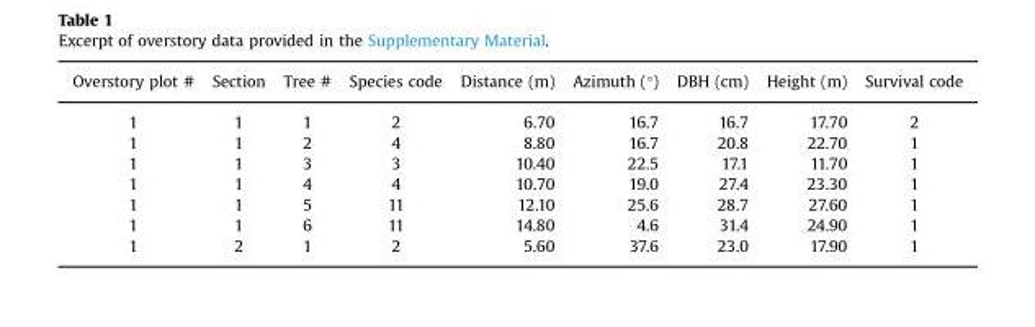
<table><thead><tr><td>Overstory plot #</td><td>Section</td><td>Tree #</td><td>Species code</td><td>Distance (m)</td><td>Azimuth (°)</td><td>DBH (cm)</td><td>Height (m)</td><td>Survival code</td></tr></thead><tbody><tr><td>1</td><td>1</td><td>1</td><td>2</td><td>6.70</td><td>16.7</td><td>16.7</td><td>17.70</td><td>2</td></tr><tr><td>1</td><td>1</td><td>2</td><td>4</td><td>8.80</td><td>16.7</td><td>20.8</td><td>22.70</td><td>1</td></tr><tr><td>1</td><td>1</td><td>3</td><td>3</td><td>10.40</td><td>22.5</td><td>17.1</td><td>11.70</td><td>1</td></tr><tr><td>1</td><td>1</td><td>4</td><td>4</td><td>10.70</td><td>19.0</td><td>27.4</td><td>23.30</td><td>1</td></tr><tr><td>1</td><td>1</td><td>5</td><td>11</td><td>12.10</td><td>25.6</td><td>28.7</td><td>27.60</td><td>1</td></tr><tr><td>1</td><td>1</td><td>6</td><td>11</td><td>14.80</td><td>4.6</td><td>31.4</td><td>24.90</td><td>1</td></tr><tr><td>1</td><td>2</td><td>1</td><td>2</td><td>5.60</td><td>37.6</td><td>23.0</td><td>17.90</td><td>1</td></tr></tbody></table>